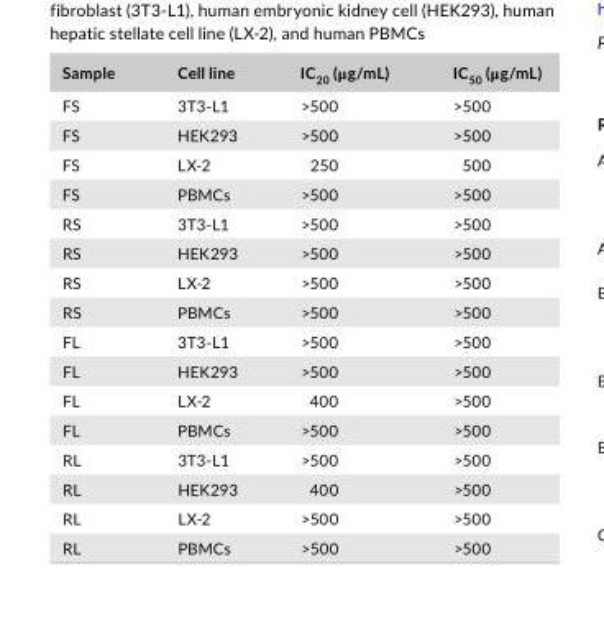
<table><thead><tr><td>Sample</td><td>Cell line</td><td>IC<sub>20</sub> (μg/mL)</td><td>IC<sub>50</sub> (μg/mL)</td></tr></thead><tbody><tr><td>FS</td><td>3T3- L1</td><td>˃500</td><td>˃500</td></tr><tr><td>FS</td><td>HEK293</td><td>˃500</td><td>˃500</td></tr><tr><td>FS</td><td>LX- 2</td><td>250</td><td>500</td></tr><tr><td>FS</td><td>PBMCs</td><td>˃500</td><td>˃500</td></tr><tr><td>RS</td><td>3T3- L1</td><td>˃500</td><td>˃500</td></tr><tr><td>RS</td><td>HEK293</td><td>˃500</td><td>˃500</td></tr><tr><td>RS</td><td>LX- 2</td><td>˃500</td><td>˃500</td></tr><tr><td>RS</td><td>PBMCs</td><td>˃500</td><td>˃500</td></tr><tr><td>FL</td><td>3T3- L1</td><td>˃500</td><td>˃500</td></tr><tr><td>FL</td><td>HEK293</td><td>˃500</td><td>˃500</td></tr><tr><td>FL</td><td>LX- 2</td><td>400</td><td>˃500</td></tr><tr><td>FL</td><td>PBMCs</td><td>˃500</td><td>˃500</td></tr><tr><td>RL</td><td>3T3- L1</td><td>˃500</td><td>˃500</td></tr><tr><td>RL</td><td>HEK293</td><td>400</td><td>˃500</td></tr><tr><td>RL</td><td>LX- 2</td><td>˃500</td><td>˃500</td></tr><tr><td>RL</td><td>PBMCs</td><td>˃500</td><td>˃500</td></tr></tbody></table>